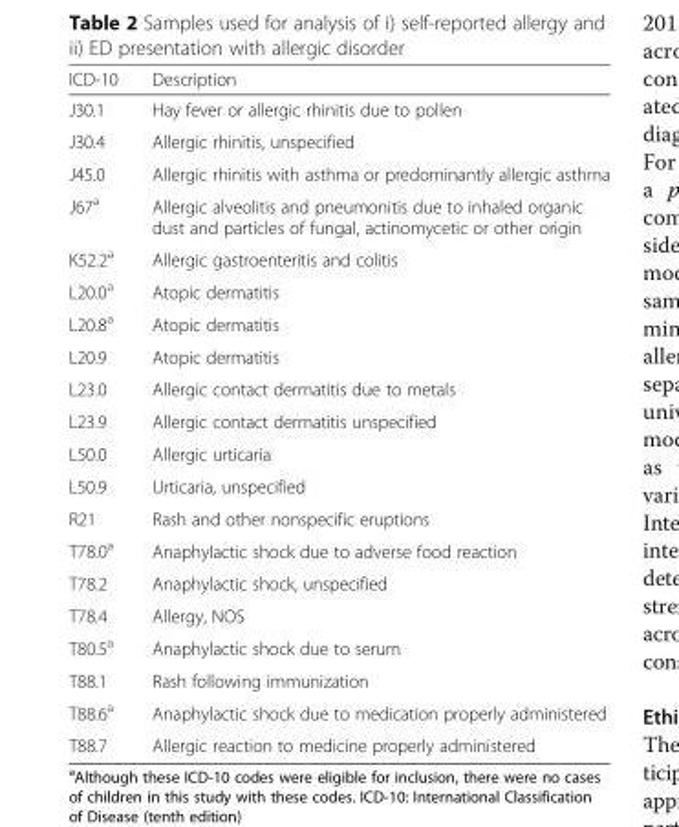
<table><thead><tr><td>ICD-10</td><td>Description</td></tr></thead><tbody><tr><td>J30.1</td><td>Hay fever or allergic rhinitis due to pollen</td></tr><tr><td>J30.4</td><td>Allergic rhinitis, unspecified</td></tr><tr><td>J45.0</td><td>Allergic rhinitis with asthma or predominantly allergic asthma</td></tr><tr><td>J67<sup>a</sup></td><td>Allergic alveolitis and pneumonitis due to inhaled organic dust and particles of fungal, actinomycetic or other origin</td></tr><tr><td>K52.2<sup>a</sup></td><td>Allergic gastroenteritis and colitis</td></tr><tr><td>L20.0<sup>a</sup></td><td>Atopic dermatitis</td></tr><tr><td>L20.8<sup>a</sup></td><td>Atopic dermatitis</td></tr><tr><td>L20.9</td><td>Atopic dermatitis</td></tr><tr><td>L23.0</td><td>Allergic contact dermatitis due to metals</td></tr><tr><td>L23.9</td><td>Allergic contact dermatitis unspecified</td></tr><tr><td>L50.0</td><td>Allergic urticaria</td></tr><tr><td>L50.9</td><td>Urticaria, unspecified</td></tr><tr><td>R21</td><td>Rash and other nonspecific eruptions</td></tr><tr><td>T78.0<sup>a</sup></td><td>Anaphylactic shock due to adverse food reaction</td></tr><tr><td>T78.2</td><td>Anaphylactic shock, unspecified</td></tr><tr><td>T78.4</td><td>Allergy, NOS</td></tr><tr><td>T80.5<sup>a</sup></td><td>Anaphylactic shock due to serum</td></tr><tr><td>T88.1</td><td>Rash following immunization</td></tr><tr><td>T88.6<sup>a</sup></td><td>Anaphylactic shock due to medication properly administered</td></tr><tr><td>T88.7</td><td>Allergic reaction to medicine properly administered</td></tr></tbody></table>